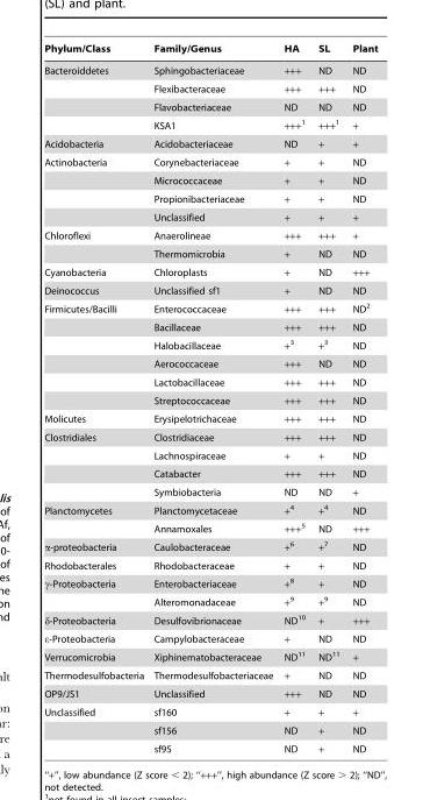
<table><thead><tr><td>Phylum/Class</td><td>Family/Genus</td><td>HA</td><td>SL</td><td>Plant</td></tr></thead><tbody><tr><td rowspan="4">Bacteroiddetes</td><td>Sphingobacteriaceae</td><td>+++</td><td>ND</td><td>ND</td></tr><tr><td>Flexibacteraceae</td><td>+++</td><td>+++</td><td>ND</td></tr><tr><td>Flavobacteriaceae</td><td>ND</td><td>ND</td><td>ND</td></tr><tr><td>KSA1</td><td>+++<sup>1</sup></td><td>+++<sup>1</sup></td><td>+</td></tr><tr><td>Acidobacteria</td><td>Acidobacteriaceae</td><td>ND</td><td>+</td><td>+</td></tr><tr><td rowspan="4">Actinobacteria</td><td>Corynebacteriaceae</td><td>+</td><td>+</td><td>ND</td></tr><tr><td>Micrococcaceae</td><td>+</td><td>+</td><td>ND</td></tr><tr><td>Propionibacteriaceae</td><td>+</td><td>+</td><td>ND</td></tr><tr><td>Unclassified</td><td>+</td><td>+</td><td>+</td></tr><tr><td rowspan="2">Chloroflexi</td><td>Anaerolineae</td><td>+++</td><td>+++</td><td>+</td></tr><tr><td>Thermomicrobia</td><td>+</td><td>ND</td><td>ND</td></tr><tr><td>Cyanobacteria</td><td>Chloroplasts</td><td>+</td><td>ND</td><td>+++</td></tr><tr><td>Deinococcus</td><td>Unclassified sf1</td><td>+</td><td>ND</td><td>ND</td></tr><tr><td rowspan="6">Firmicutes/Bacilli</td><td>Enterococcaceae</td><td>+++</td><td>+++</td><td>ND<sup>2</sup></td></tr><tr><td>Bacillaceae</td><td>+++</td><td>+++</td><td>ND</td></tr><tr><td>Halobacillaceae</td><td>+<sup>3</sup></td><td>+<sup>3</sup></td><td>ND</td></tr><tr><td>Aerococcaceae</td><td>+++</td><td>ND</td><td>ND</td></tr><tr><td>Lactobacillaceae</td><td>+++</td><td>+++</td><td>ND</td></tr><tr><td>Streptococcaceae</td><td>+++</td><td>+++</td><td>ND</td></tr><tr><td>Molicutes</td><td>Erysipelotrichaceae</td><td>+++</td><td>+++</td><td>ND</td></tr><tr><td rowspan="4">Clostridiales</td><td>Clostridiaceae</td><td>+++</td><td>+++</td><td>ND</td></tr><tr><td>Lachnospiraceae</td><td>+</td><td>+</td><td>ND</td></tr><tr><td>Catabacter</td><td>+++</td><td>+++</td><td>ND</td></tr><tr><td>Symbiobacteria</td><td>ND</td><td>ND</td><td>+</td></tr><tr><td rowspan="2">Planctomycetes</td><td>Planctomycetaceae</td><td>+<sup>4</sup></td><td>+<sup>4</sup></td><td>ND</td></tr><tr><td>Annamoxales</td><td>+++<sup>5</sup></td><td>ND</td><td>+++</td></tr><tr><td>α-proteobacteria</td><td>Caulobacteraceae</td><td>+<sup>6</sup></td><td>+<sup>7</sup></td><td>ND</td></tr><tr><td>Rhodobacterales</td><td>Rhodobacteraceae</td><td>+</td><td>+</td><td>ND</td></tr><tr><td rowspan="2">γ-Proteobacteria</td><td>Enterobacteriaceae</td><td>+<sup>8</sup></td><td>+</td><td>ND</td></tr><tr><td>Alteromonadaceae</td><td>+<sup>9</sup></td><td>+<sup>9</sup></td><td>ND</td></tr><tr><td>δ-Proteobacteria</td><td>Desulfovibrionaceae</td><td>ND<sup>10</sup></td><td>+</td><td>+++</td></tr><tr><td>ε-Proteobacteria</td><td>Campylobacteraceae</td><td>+</td><td>ND</td><td>ND</td></tr><tr><td>Verrucomicrobia</td><td>Xiphinematobacteraceae</td><td>ND<sup>11</sup></td><td>ND<sup>11</sup></td><td>+</td></tr><tr><td>Thermodesulfobacteria</td><td>Thermodesulfobacteriaceae</td><td>+</td><td>ND</td><td>ND</td></tr><tr><td>OP9/JS1</td><td>Unclassified</td><td>+++</td><td>ND</td><td>ND</td></tr><tr><td rowspan="3">Unclassified</td><td>sf160</td><td>+</td><td>+</td><td>+</td></tr><tr><td>sf156</td><td>ND</td><td>+</td><td>ND</td></tr><tr><td>sf95</td><td>ND</td><td>+</td><td>ND</td></tr></tbody></table>